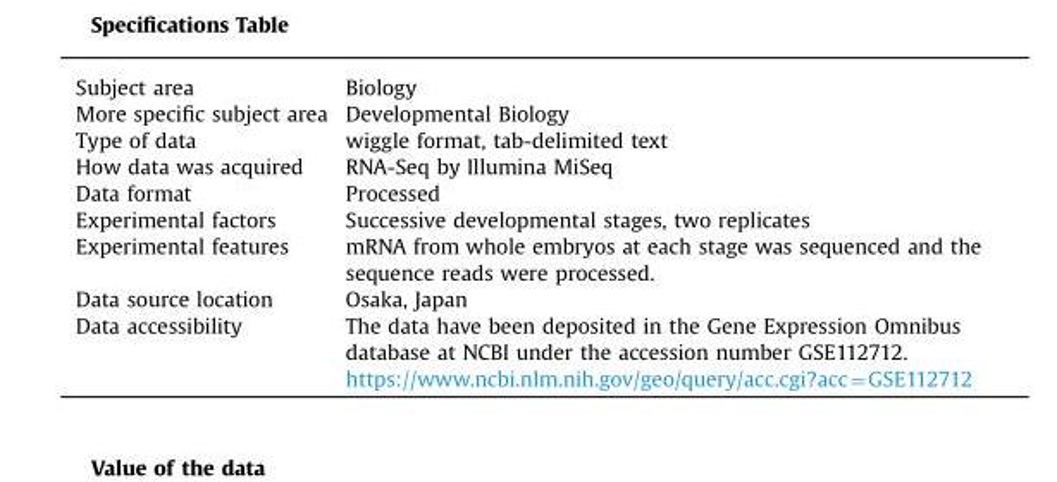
<table><thead><tr><td>Subject area</td><td>Biology</td></tr></thead><tbody><tr><td>More specific subject area</td><td>Developmental Biology</td></tr><tr><td>Type of data</td><td>wiggle format, tab-delimited text</td></tr><tr><td>How data was acquired</td><td>RNA-Seq by Illumina MiSeq</td></tr><tr><td>Data format</td><td>Processed</td></tr><tr><td>Experimental factors</td><td>Successive developmental stages, two replicates</td></tr><tr><td>Experimental features</td><td>mRNA from whole embryos at each stage was sequenced and the sequence reads were processed.</td></tr><tr><td>Data source location</td><td>Osaka, Japan</td></tr><tr><td rowspan="2">Data accessibility</td><td>The data have been deposited in the Gene Expression Omnibus database at NCBI under the accession number GSE112712.</td></tr><tr><td>https://www.ncbi.nlm.nih.gov/geo/query/acc.cgi?acc=GSE112712</td></tr></tbody></table>